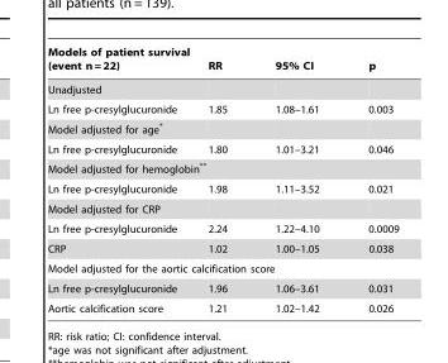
<table><thead><tr><td>Models of patient survival (event n = 22)</td><td>RR</td><td>95% CI</td><td>p</td></tr></thead><tbody><tr><td colspan="4">Unadjusted</td></tr><tr><td>Ln free p-cresylglucuronide</td><td>1.85</td><td>1.08–1.61</td><td>0.003</td></tr><tr><td colspan="4">Model adjusted for age*</td></tr><tr><td>Ln free p-cresylglucuronide</td><td>1.80</td><td>1.01–3.21</td><td>0.046</td></tr><tr><td colspan="4">Model adjusted for hemoglobin**</td></tr><tr><td>Ln free p-cresylglucuronide</td><td>1.98</td><td>1.11–3.52</td><td>0.021</td></tr><tr><td colspan="4">Model adjusted for CRP</td></tr><tr><td>Ln free p-cresylglucuronide</td><td>2.24</td><td>1.22–4.10</td><td>0.0009</td></tr><tr><td>CRP</td><td>1.02</td><td>1.00–1.05</td><td>0.038</td></tr><tr><td colspan="4">Model adjusted for the aortic calcification score</td></tr><tr><td>Ln free p-cresylglucuronide</td><td>1.96</td><td>1.06–3.61</td><td>0.031</td></tr><tr><td>Aortic calcification score</td><td>1.21</td><td>1.02–1.42</td><td>0.026</td></tr></tbody></table>